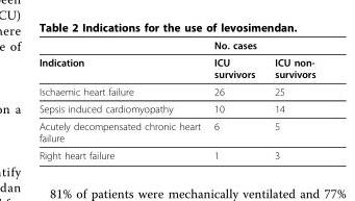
<table><thead><tr><td rowspan="2">Indication</td><td colspan="2">No. cases</td></tr><tr><td>ICU survivors</td><td>ICU non- survivors</td></tr></thead><tbody><tr><td>Ischaemic heart failure</td><td>26</td><td>25</td></tr><tr><td>Sepsis induced cardiomyopathy</td><td>10</td><td>14</td></tr><tr><td>Acutely decompensated chronic heart failure</td><td>6</td><td>5</td></tr><tr><td>Right heart failure</td><td>1</td><td>3</td></tr></tbody></table>